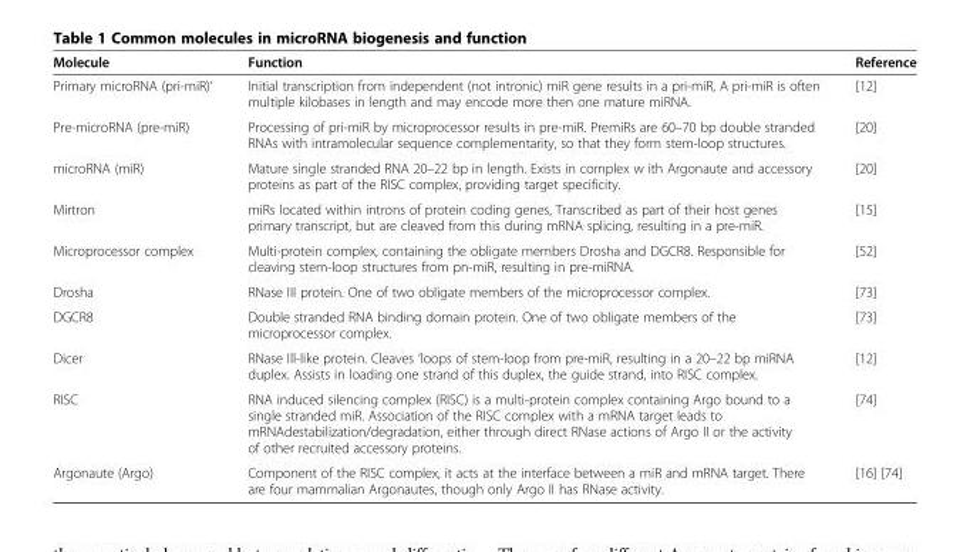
<table><thead><tr><td>Molecule</td><td>Function</td><td>Reference</td></tr></thead><tbody><tr><td>Primary microRNA (pri-miR)‘</td><td>Initial transcription from independent (not intronic) miR gene results in a pri-miR, A pri-miR is often multiple kilobases in length and may encode more then one mature miRNA.</td><td>[12]</td></tr><tr><td>Pre-microRNA (pre-miR)</td><td>Processing of pri-miR by microprocessor results in pre-miR. PremiRs are 60–70 bp double stranded RNAs with intramolecular sequence complementarity, so that they form stem-loop structures.</td><td>[20]</td></tr><tr><td>microRNA (miR)</td><td>Mature single stranded RNA 20–22 bp in length. Exists in complex w ith Argonaute and accessory proteins as part of the RISC complex, providing target specificity.</td><td>[20]</td></tr><tr><td>Mirtron</td><td>miRs located within introns of protein coding genes, Transcribed as part of their host genes primary transcript, but are cleaved from this during mRNA splicing, resulting in a pre-miR.</td><td>[15]</td></tr><tr><td>Microprocessor complex</td><td>Multi-protein complex, containing the obligate members Drosha and DGCR8. Responsible for cleaving stem-loop structures from pn-miR, resulting in pre-miRNA.</td><td>[52]</td></tr><tr><td>Drosha</td><td>RNase III protein. One of two obligate members of the microprocessor complex.</td><td>[73]</td></tr><tr><td>DGCR8</td><td>Double stranded RNA binding domain protein. One of two obligate members of the microprocessor complex.</td><td>[73]</td></tr><tr><td>Dicer</td><td>RNase Ill-like protein. Cleaves ‘loops of stem-loop from pre-miR, resulting in a 20–22 bp miRNA duplex. Assists in loading one strand of this duplex, the guide strand, into RISC complex.</td><td>[12]</td></tr><tr><td>RISC</td><td>RNA induced silencing complex (RISC) is a multi-protein complex containing Argo bound to a single stranded miR. Association of the RISC complex with a mRNA target leads to mRNAdestabilization/degradation, either through direct RNase actions of Argo II or the activity of other recruited accessory proteins.</td><td>[74]</td></tr><tr><td>Argonaute (Argo)</td><td>Component of the RISC complex, it acts at the interface between a miR and mRNA target. There are four mammalian Argonautes, though only Argo II has RNase activity.</td><td>[16] [74]</td></tr></tbody></table>